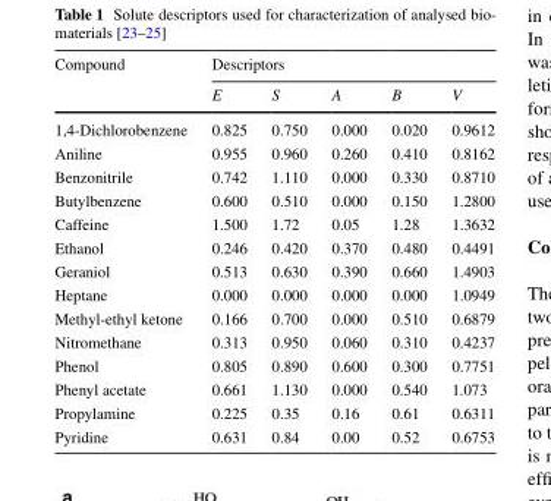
<table><thead><tr><td rowspan="2">Compound</td><td colspan="5">Descriptors</td></tr><tr><td>E</td><td>S</td><td>A</td><td>B</td><td>V</td></tr></thead><tbody><tr><td>1,4-Dichlorobenzene</td><td>0.825</td><td>0.750</td><td>0.000</td><td>0.020</td><td>0.9612</td></tr><tr><td>Aniline</td><td>0.955</td><td>0.960</td><td>0.260</td><td>0.410</td><td>0.8162</td></tr><tr><td>Benzonitrile</td><td>0.742</td><td>1.110</td><td>0.000</td><td>0.330</td><td>0.8710</td></tr><tr><td>Butylbenzene</td><td>0.600</td><td>0.510</td><td>0.000</td><td>0.150</td><td>1.2800</td></tr><tr><td>Caffeine</td><td>1.500</td><td>1.72</td><td>0.05</td><td>1.28</td><td>1.3632</td></tr><tr><td>Ethanol</td><td>0.246</td><td>0.420</td><td>0.370</td><td>0.480</td><td>0.4491</td></tr><tr><td>Geraniol</td><td>0.513</td><td>0.630</td><td>0.390</td><td>0.660</td><td>1.4903</td></tr><tr><td>Heptane</td><td>0.000</td><td>0.000</td><td>0.000</td><td>0.000</td><td>1.0949</td></tr><tr><td>Methyl-ethyl ketone</td><td>0.166</td><td>0.700</td><td>0.000</td><td>0.510</td><td>0.6879</td></tr><tr><td>Nitromethane</td><td>0.313</td><td>0.950</td><td>0.060</td><td>0.310</td><td>0.4237</td></tr><tr><td>Phenol</td><td>0.805</td><td>0.890</td><td>0.600</td><td>0.300</td><td>0.7751</td></tr><tr><td>Phenyl acetate</td><td>0.661</td><td>1.130</td><td>0.000</td><td>0.540</td><td>1.073</td></tr><tr><td>Propylamine</td><td>0.225</td><td>0.35</td><td>0.16</td><td>0.61</td><td>0.6311</td></tr><tr><td>Pyridine</td><td>0.631</td><td>0.84</td><td>0.00</td><td>0.52</td><td>0.6753</td></tr></tbody></table>